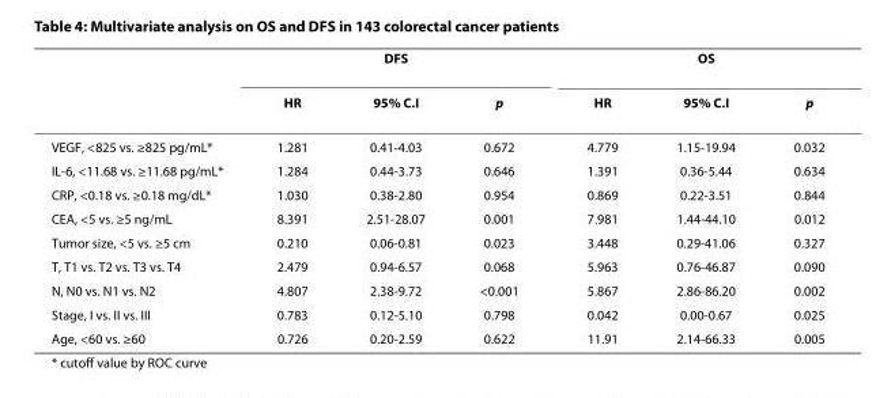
<table><thead><tr><td rowspan="2"></td><td colspan="3">DFS</td><td colspan="3">OS</td></tr><tr><td>HR</td><td>95% C.I</td><td>p</td><td>HR</td><td>95% C.I</td><td>p</td></tr></thead><tbody><tr><td>VEGF, &lt;825 vs. ≥825 pg/mL*</td><td>1.281</td><td>0.41-4.03</td><td>0.672</td><td>4.779</td><td>1.15-19.94</td><td>0.032</td></tr><tr><td>IL-6, &lt;11.68 vs. ≥11.68 pg/mL*</td><td>1.284</td><td>0.44-3.73</td><td>0.646</td><td>1.391</td><td>0.36-5.44</td><td>0.634</td></tr><tr><td>CRP, &lt;0.18 vs. ≥0.18 mg/dL*</td><td>1.030</td><td>0.38-2.80</td><td>0.954</td><td>0.869</td><td>0.22-3.51</td><td>0.844</td></tr><tr><td>CEA, &lt;5 vs. ≥5 ng/mL</td><td>8.391</td><td>2.51-28.07</td><td>0.001</td><td>7.981</td><td>1.44-44.10</td><td>0.012</td></tr><tr><td>Tumor size, &lt;5 vs. ≥5 cm</td><td>0.210</td><td>0.06-0.81</td><td>0.023</td><td>3.448</td><td>0.29-41.06</td><td>0.327</td></tr><tr><td>T, T1 vs. T2 vs. T3 vs. T4</td><td>2.479</td><td>0.94-6.57</td><td>0.068</td><td>5.963</td><td>0.76-46.87</td><td>0.090</td></tr><tr><td>N, N0 vs. N1 vs. N2</td><td>4.807</td><td>2.38-9.72</td><td>&lt;0.001</td><td>5.867</td><td>2.86-86.20</td><td>0.002</td></tr><tr><td>Stage, I vs. II vs. III</td><td>0.783</td><td>0.12-5.10</td><td>0.798</td><td>0.042</td><td>0.00-0.67</td><td>0.025</td></tr><tr><td>Age, &lt;60 vs. ≥60</td><td>0.726</td><td>0.20-2.59</td><td>0.622</td><td>11.91</td><td>2.14-66.33</td><td>0.005</td></tr></tbody></table>